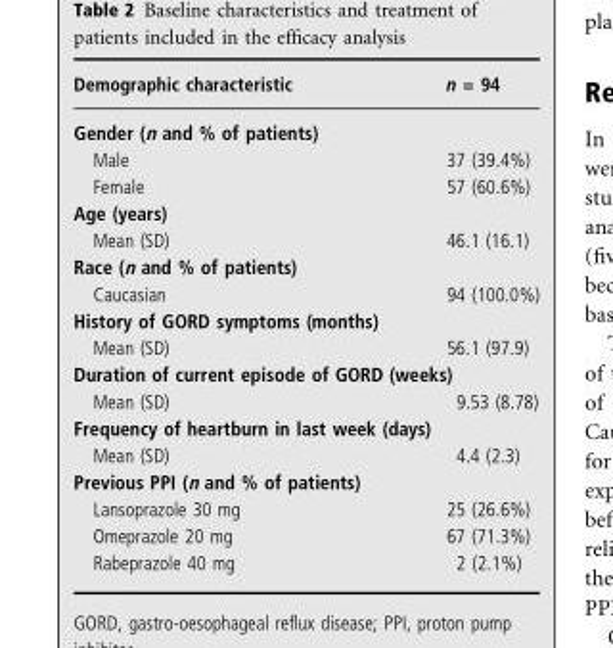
<table><thead><tr><td>Demographic characteristic</td><td>n = 94</td></tr></thead><tbody><tr><td colspan="2">Gender (n and % of patients)</td></tr><tr><td>Male</td><td>37 (39.4%)</td></tr><tr><td>Female</td><td>57 (60.6%)</td></tr><tr><td colspan="2">Age (years)</td></tr><tr><td>Mean (SD)</td><td>46.1 (16.1)</td></tr><tr><td colspan="2">Race (n and % of patients)</td></tr><tr><td>Caucasian</td><td>94 (100.0%)</td></tr><tr><td colspan="2">History of GORD symptoms (months)</td></tr><tr><td>Mean (SD)</td><td>56.1 (97.9)</td></tr><tr><td colspan="2">Duration of current episode of GORD (weeks)</td></tr><tr><td>Mean (SD)</td><td>9.53 (8.78)</td></tr><tr><td colspan="2">Frequency of heartburn in last week (days)</td></tr><tr><td>Mean (SD)</td><td>4.4 (2.3)</td></tr><tr><td colspan="2">Previous PPI (n and % of patients)</td></tr><tr><td>Lansoprazole 30 mg</td><td>25 (26.6%)</td></tr><tr><td>Omeprazole 20 mg</td><td>67 (71.3%)</td></tr><tr><td>Rabeprazole 40 mg</td><td>2 (2.1%)</td></tr></tbody></table>